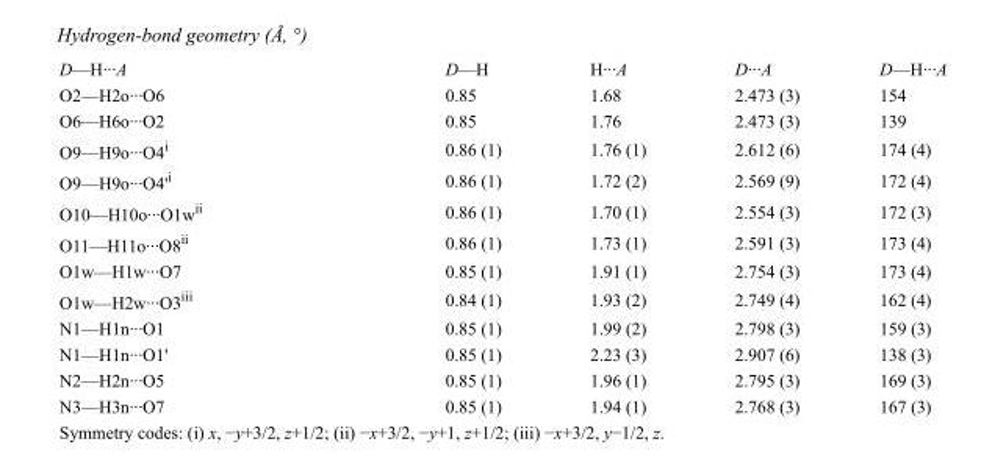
<table><tbody><tr><td>D—H···A</td><td>D—H</td><td>H···A</td><td>D···A</td><td>D—H···A</td></tr><tr><td>O2—H2o···O6</td><td>0.85</td><td>1.68</td><td>2.473 (3)</td><td>154</td></tr><tr><td>O6—H6o···O2</td><td>0.85</td><td>1.76</td><td>2.473 (3)</td><td>139</td></tr><tr><td>O9—H9o···O4<sup>i</sup></td><td>0.86 (1)</td><td>1.76 (1)</td><td>2.612 (6)</td><td>174 (4)</td></tr><tr><td>O9—H9o···O4&#x27;<sup>i</sup></td><td>0.86 (1)</td><td>1.72 (2)</td><td>2.569 (9)</td><td>172 (4)</td></tr><tr><td>O10—H10o···O1w<sup>ii</sup></td><td>0.86 (1)</td><td>1.70 (1)</td><td>2.554 (3)</td><td>172 (3)</td></tr><tr><td>O11—H11o···O8<sup>ii</sup></td><td>0.86 (1)</td><td>1.73 (1)</td><td>2.591 (3)</td><td>173 (4)</td></tr><tr><td>O1w—H1w···O7</td><td>0.85 (1)</td><td>1.91 (1)</td><td>2.754 (3)</td><td>173 (4)</td></tr><tr><td>O1w—H2w···O3<sup>iii</sup></td><td>0.84 (1)</td><td>1.93 (2)</td><td>2.749 (4)</td><td>162 (4)</td></tr><tr><td>N1—H1n···O1</td><td>0.85 (1)</td><td>1.99 (2)</td><td>2.798 (3)</td><td>159 (3)</td></tr><tr><td>N1—H1n···O1&#x27;</td><td>0.85 (1)</td><td>2.23 (3)</td><td>2.907 (6)</td><td>138 (3)</td></tr><tr><td>N2—H2n···O5</td><td>0.85 (1)</td><td>1.96 (1)</td><td>2.795 (3)</td><td>169 (3)</td></tr><tr><td>N3—H3n···O7</td><td>0.85 (1)</td><td>1.94 (1)</td><td>2.768 (3)</td><td>167 (3)</td></tr></tbody></table>